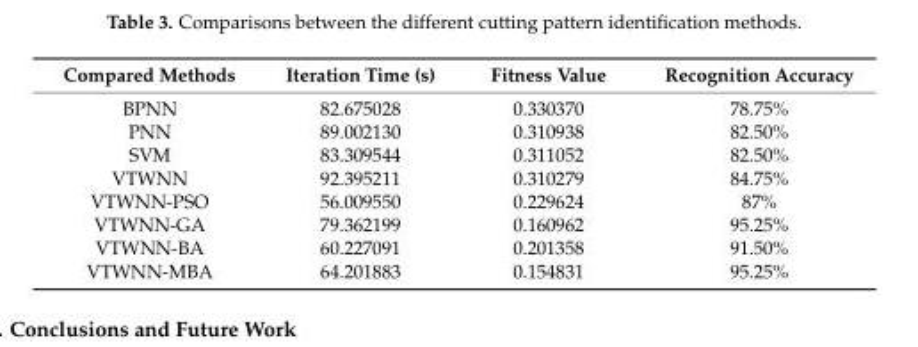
<table><thead><tr><td>Compared Methods</td><td>Iteration Time (s)</td><td>Fitness Value</td><td>Recognition Accuracy</td></tr></thead><tbody><tr><td>BPNN</td><td>82.675028</td><td>0.330370</td><td>78.75%</td></tr><tr><td>PNN</td><td>89.002130</td><td>0.310938</td><td>82.50%</td></tr><tr><td>SVM</td><td>83.309544</td><td>0.311052</td><td>82.50%</td></tr><tr><td>VTWNN</td><td>92.395211</td><td>0.310279</td><td>84.75%</td></tr><tr><td>VTWNN-PSO</td><td>56.009550</td><td>0.229624</td><td>87%</td></tr><tr><td>VTWNN-GA</td><td>79.362199</td><td>0.160962</td><td>95.25%</td></tr><tr><td>VTWNN-BA</td><td>60.227091</td><td>0.201358</td><td>91.50%</td></tr><tr><td>VTWNN-MBA</td><td>64.201883</td><td>0.154831</td><td>95.25%</td></tr></tbody></table>